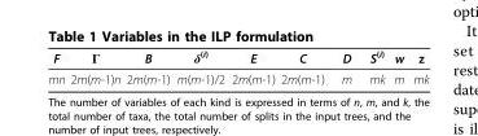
<table><thead><tr><td>F</td><td>Γ</td><td>B</td><td>δ<sup>(i)</sup></td><td>E</td><td>C</td><td>D</td><td>S<sup>(i)</sup></td><td>w</td><td>z</td></tr></thead><tbody><tr><td>mn</td><td>2m(m-1)n</td><td>2m(m-1)</td><td>m(m-1)/2</td><td>2m(m-1)</td><td>2m(m-1)</td><td>m</td><td>mk</td><td>m</td><td>mk</td></tr></tbody></table>